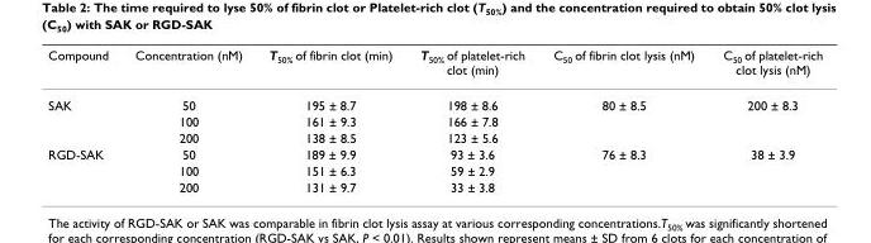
<table><thead><tr><td>Compound</td><td>Concentration (nM)</td><td>T<sub>50%</sub> of fibrin clot (min)</td><td>T<sub>50%</sub> of platelet-rich clot (min)</td><td>C<sub>50</sub> of fibrin clot lysis (nM)</td><td>C<sub>50</sub> of platelet-rich clot lysis (nM)</td></tr></thead><tbody><tr><td rowspan="3">SAK</td><td>50</td><td>195 ± 8.7</td><td>198 ± 8.6</td><td>80 ± 8.5</td><td>200 ± 8.3</td></tr><tr><td>100</td><td>161 ± 9.3</td><td>166 ± 7.8</td><td></td><td></td></tr><tr><td>200</td><td>138 ± 8.5</td><td>123 ± 5.6</td><td></td><td></td></tr><tr><td rowspan="3">RGD-SAK</td><td>50</td><td>189 ± 9.9</td><td>93 ± 3.6</td><td>76 ± 8.3</td><td>38 ± 3.9</td></tr><tr><td>100</td><td>151 ± 6.3</td><td>59 ± 2.9</td><td></td><td></td></tr><tr><td>200</td><td>131 ± 9.7</td><td>33 ± 3.8</td><td></td><td></td></tr></tbody></table>